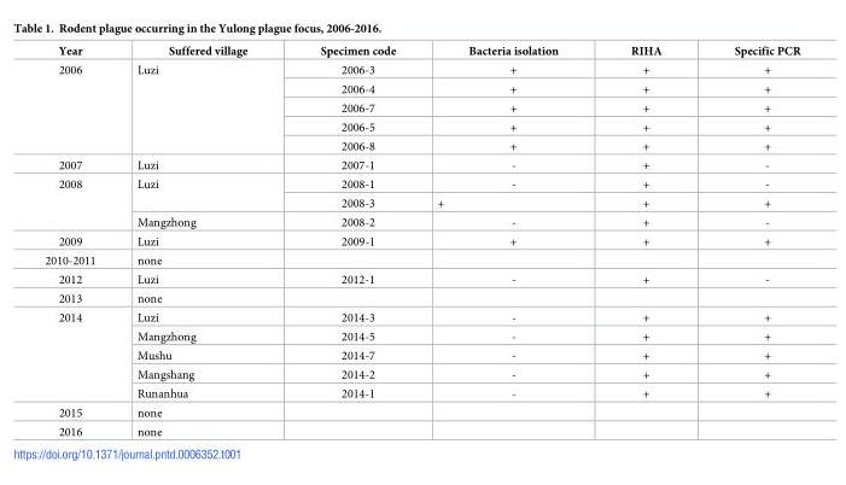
<table><thead><tr><td>Year</td><td>Suffered village</td><td>Specimen code</td><td>Bacteria isolation</td><td>RIHA</td><td>Specific PCR</td></tr></thead><tbody><tr><td rowspan="5">2006</td><td rowspan="5">Luzi</td><td>2006-3</td><td>+</td><td>+</td><td>+</td></tr><tr><td>2006-4</td><td>+</td><td>+</td><td>+</td></tr><tr><td>2006-7</td><td>+</td><td>+</td><td>+</td></tr><tr><td>2006-5</td><td>+</td><td>+</td><td>+</td></tr><tr><td>2006-8</td><td>+</td><td>+</td><td>+</td></tr><tr><td>2007</td><td>Luzi</td><td>2007-1</td><td>-</td><td>+</td><td>-</td></tr><tr><td rowspan="3">2008</td><td rowspan="2">Luzi</td><td>2008-1</td><td>-</td><td>+</td><td>-</td></tr><tr><td>2008-3</td><td>+</td><td>+</td><td>+</td></tr><tr><td>Mangzhong</td><td>2008-2</td><td>-</td><td>+</td><td>-</td></tr><tr><td>2009</td><td>Luzi</td><td>2009-1</td><td>+</td><td>+</td><td>+</td></tr><tr><td>2010-2011</td><td>none</td><td></td><td></td><td></td><td></td></tr><tr><td>2012</td><td>Luzi</td><td>2012-1</td><td>-</td><td>+</td><td>-</td></tr><tr><td>2013</td><td>none</td><td></td><td></td><td></td><td></td></tr><tr><td rowspan="5">2014</td><td>Luzi</td><td>2014-3</td><td>-</td><td>+</td><td>+</td></tr><tr><td>Mangzhong</td><td>2014-5</td><td>-</td><td>+</td><td>+</td></tr><tr><td>Mushu</td><td>2014-7</td><td>-</td><td>+</td><td>+</td></tr><tr><td>Mangshang</td><td>2014-2</td><td>-</td><td>+</td><td>+</td></tr><tr><td>Runanhua</td><td>2014-1</td><td>-</td><td>+</td><td>+</td></tr><tr><td>2015</td><td>none</td><td></td><td></td><td></td><td></td></tr><tr><td>2016</td><td>none</td><td></td><td></td><td></td><td></td></tr></tbody></table>